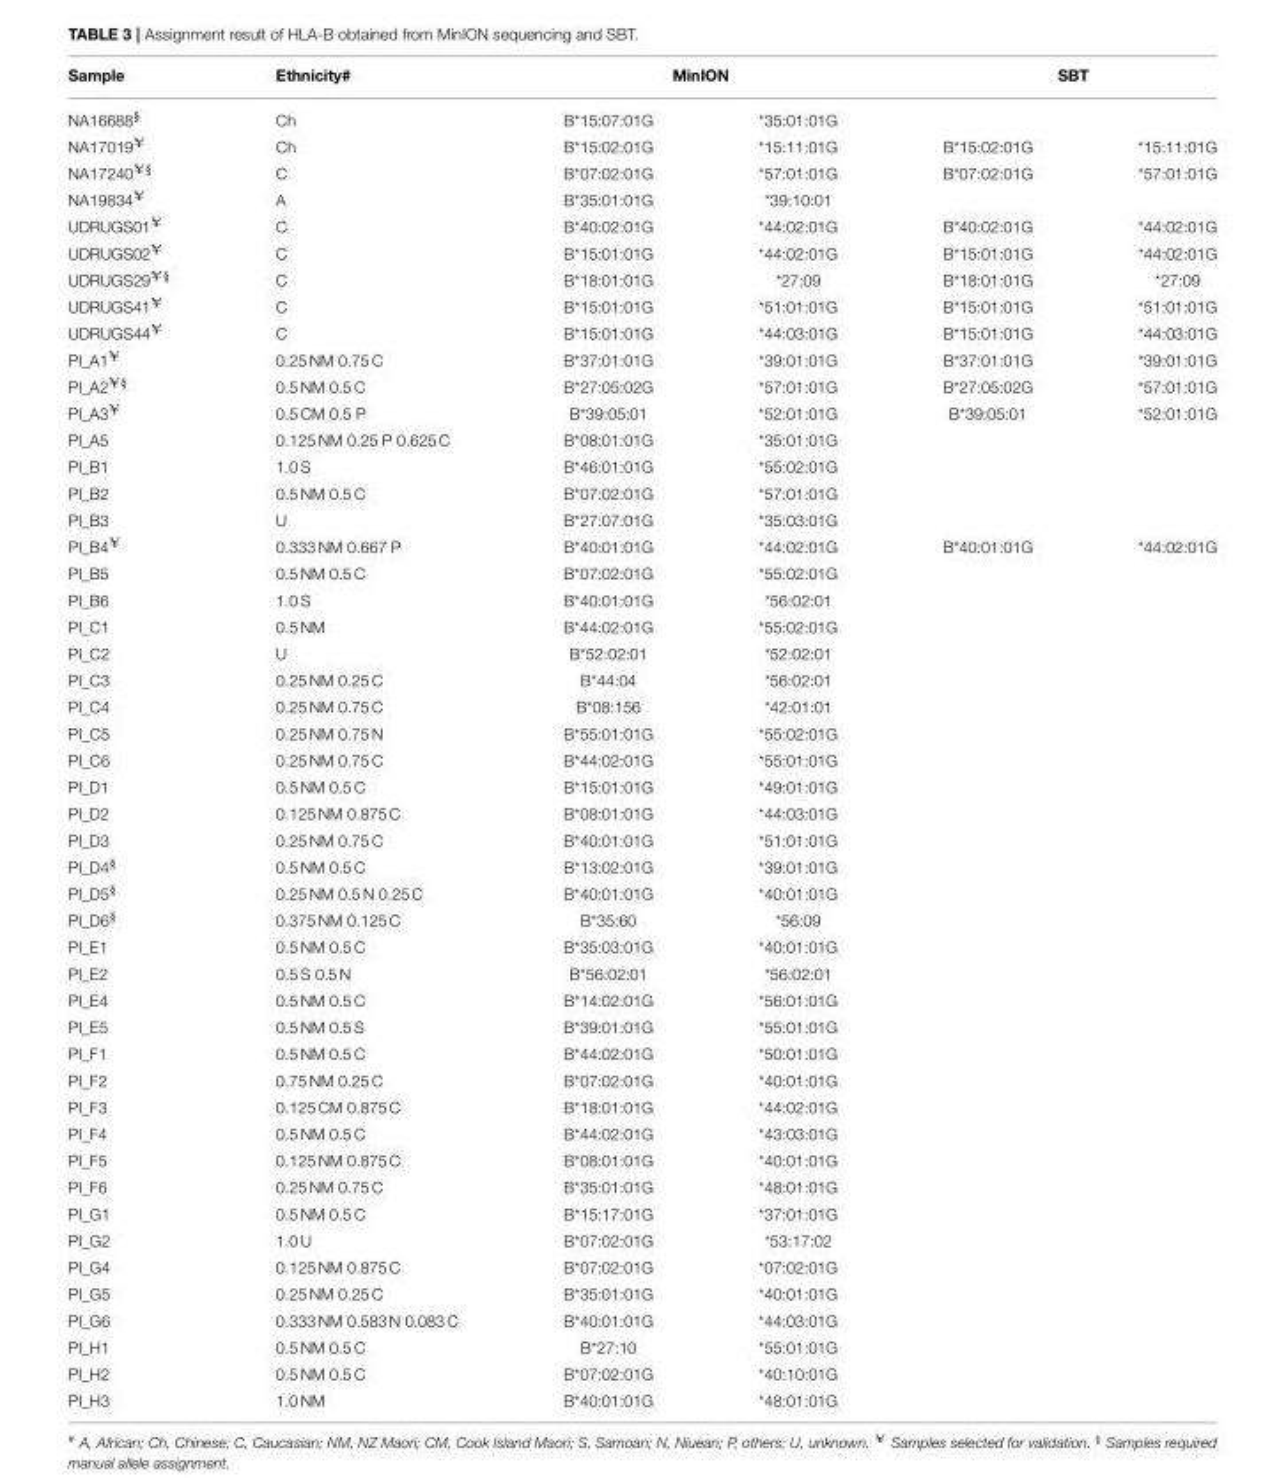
<table><thead><tr><td rowspan="2">Sample NA16688<sup>§</sup></td><td rowspan="2">Ethnicity<sup>#</sup> Ch</td><td colspan="2">MinION</td><td colspan="2">SBT</td></tr><tr><td>B*15:07:01G</td><td>*35:01:01G</td><td></td><td></td></tr></thead><tbody><tr><td>NA17019<sup>¥</sup></td><td>Ch</td><td>B*15:02:01G</td><td>*15:11:01G</td><td>B*15:02:01G</td><td>*15:11:01G</td></tr><tr><td>NA17240<sup>¥§</sup></td><td>C</td><td>B*07:02:01G</td><td>*57:01:01G</td><td>B*07:02:01G</td><td>*57:01:01G</td></tr><tr><td>NA19834<sup>¥</sup></td><td>A</td><td>B*35:01:01G</td><td>*39:10:01</td><td></td><td></td></tr><tr><td>UDRUGS01<sup>¥</sup></td><td>C</td><td>B*40:02:01G</td><td>*44:02:01G</td><td>B*40:02:01G</td><td>*44:02:01G</td></tr><tr><td>UDRUGS02<sup>¥</sup></td><td>C</td><td>B*15:01:01G</td><td>*44:02:01G</td><td>B*15:01:01G</td><td>*44:02:01G</td></tr><tr><td>UDRUGS29<sup>¥§</sup></td><td>C</td><td>B*18:01:01G</td><td>*27:09</td><td>B*18:01:01G</td><td>*27:09</td></tr><tr><td>UDRUGS41<sup>¥</sup></td><td>C</td><td>B*15:01:01G</td><td>*51:01:01G</td><td>B*15:01:01G</td><td>*51:01:01G</td></tr><tr><td>UDRUGS44<sup>¥</sup></td><td>C</td><td>B*15:01:01G</td><td>*44:03:01G</td><td>B*15:01:01G</td><td>*44:03:01G</td></tr><tr><td>PI_A1<sup>¥</sup></td><td>0.25 NM 0.75 C</td><td>B*37:01:01G</td><td>*39:01:01G</td><td>B*37:01:01G</td><td>*39:01:01G</td></tr><tr><td>PI_A2<sup>¥§</sup></td><td>0.5 NM 0.5 C</td><td>B*27:05:02G</td><td>*57:01:01G</td><td>B*27:05:02G</td><td>*57:01:01G</td></tr><tr><td>PI_A3<sup>¥</sup></td><td>0.5 CM 0.5 P</td><td>B*39:05:01</td><td>*52:01:01G</td><td>B*39:05:01</td><td>*52:01:01G</td></tr><tr><td>PI_A5</td><td>0.125 NM 0.25 P 0.625 C</td><td>B*08:01:01G</td><td>*35:01:01G</td><td></td><td></td></tr><tr><td>PI_B1</td><td>1.0 S</td><td>B*46:01:01G</td><td>*55:02:01G</td><td></td><td></td></tr><tr><td>PI_B2</td><td>0.5 NM 0.5 C</td><td>B*07:02:01G</td><td>*57:01:01G</td><td></td><td></td></tr><tr><td>PI_B3</td><td>U</td><td>B*27:07:01G</td><td>*35:03:01G</td><td></td><td></td></tr><tr><td>PI_B4<sup>¥</sup></td><td>0.333 NM 0.667 P</td><td>B*40:01:01G</td><td>*44:02:01G</td><td>B*40:01:01G</td><td>*44:02:01G</td></tr><tr><td>PI_B5</td><td>0.5 NM 0.5 C</td><td>B*07:02:01G</td><td>*55:02:01G</td><td></td><td></td></tr><tr><td>PI_B6</td><td>1.0 S</td><td>B*40:01:01G</td><td>*56:02:01</td><td></td><td></td></tr><tr><td>PI_C1</td><td>0.5 NM</td><td>B*44:02:01G</td><td>*55:02:01G</td><td></td><td></td></tr><tr><td>PI_C2</td><td>U</td><td>B*52:02:01</td><td>*52:02:01</td><td></td><td></td></tr><tr><td>PI_C3</td><td>0.25 NM 0.25 C</td><td>B*44:04</td><td>*56:02:01</td><td></td><td></td></tr><tr><td>PI_C4</td><td>0.25 NM 0.75 C</td><td>B*08:156</td><td>*42:01:01</td><td></td><td></td></tr><tr><td>PI_C5</td><td>0.25 NM 0.75 N</td><td>B*55:01:01G</td><td>*55:02:01G</td><td></td><td></td></tr><tr><td>PI_C6</td><td>0.25 NM 0.75 C</td><td>B*44:02:01G</td><td>*55:01:01G</td><td></td><td></td></tr><tr><td>PI_D1</td><td>0.5 NM 0.5 C</td><td>B*15:01:01G</td><td>*49:01:01G</td><td></td><td></td></tr><tr><td>PI_D2</td><td>0.125 NM 0.875 C</td><td>B*08:01:01G</td><td>*44:03:01G</td><td></td><td></td></tr><tr><td>PI_D3</td><td>0.25 NM 0.75 C</td><td>B*40:01:01G</td><td>*51:01:01G</td><td></td><td></td></tr><tr><td>PI_D4<sup>§</sup></td><td>0.5 NM 0.5 C</td><td>B*13:02:01G</td><td>*39:01:01G</td><td></td><td></td></tr><tr><td>PI_D5<sup>§</sup></td><td>0.25 NM 0.5 N 0.25 C</td><td>B*40:01:01G</td><td>*40:01:01G</td><td></td><td></td></tr><tr><td>PI_D6<sup>§</sup></td><td>0.375 NM 0.125 C</td><td>B*35:60</td><td>*56:09</td><td></td><td></td></tr><tr><td>PI_E1</td><td>0.5 NM 0.5 C</td><td>B*35:03:01G</td><td>*40:01:01G</td><td></td><td></td></tr><tr><td>PI_E2</td><td>0.5 S 0.5 N</td><td>B*56:02:01</td><td>*56:02:01</td><td></td><td></td></tr><tr><td>PI_E4</td><td>0.5 NM 0.5 C</td><td>B*14:02:01G</td><td>*56:01:01G</td><td></td><td></td></tr><tr><td>PI_E5</td><td>0.5 NM 0.5 S</td><td>B*39:01:01G</td><td>*55:01:01G</td><td></td><td></td></tr><tr><td>PI_F1</td><td>0.5 NM 0.5 C</td><td>B*44:02:01G</td><td>*50:01:01G</td><td></td><td></td></tr><tr><td>PI_F2</td><td>0.75 NM 0.25 C</td><td>B*07:02:01G</td><td>*40:01:01G</td><td></td><td></td></tr><tr><td>PI_F3</td><td>0.125 CM 0.875 C</td><td>B*18:01:01G</td><td>*44:02:01G</td><td></td><td></td></tr><tr><td>PI_F4</td><td>0.5 NM 0.5 C</td><td>B*44:02:01G</td><td>*43:03:01G</td><td></td><td></td></tr><tr><td>PI_F5</td><td>0.125 NM 0.875 C</td><td>B*08:01:01G</td><td>*40:01:01G</td><td></td><td></td></tr><tr><td>PI_F6</td><td>0.25 NM 0.75 C</td><td>B*35:01:01G</td><td>*48:01:01G</td><td></td><td></td></tr><tr><td>PI_G1</td><td>0.5 NM 0.5 C</td><td>B*15:17:01G</td><td>*37:01:01G</td><td></td><td></td></tr><tr><td>PI_G2</td><td>1.0 U</td><td>B*07:02:01G</td><td>*53:17:02</td><td></td><td></td></tr><tr><td>PI_G4</td><td>0.125 NM 0.875 C</td><td>B*07:02:01G</td><td>*07:02:01G</td><td></td><td></td></tr><tr><td>PI_G5</td><td>0.25 NM 0.25 C</td><td>B*35:01:01G</td><td>*40:01:01G</td><td></td><td></td></tr><tr><td>PI_G6</td><td>0.333 NM 0.583 N 0.083 C</td><td>B*40:01:01G</td><td>*44:03:01G</td><td></td><td></td></tr><tr><td>PI_H1</td><td>0.5 NM 0.5 C</td><td>B*27:10</td><td>*55:01:01G</td><td></td><td></td></tr><tr><td>PI_H2</td><td>0.5 NM 0.5 C</td><td>B*07:02:01G</td><td>*40:10:01G</td><td></td><td></td></tr><tr><td>PI_H3</td><td>1.0 NM</td><td>B*40:01:01G</td><td>*48:01:01G</td><td></td><td></td></tr></tbody></table>